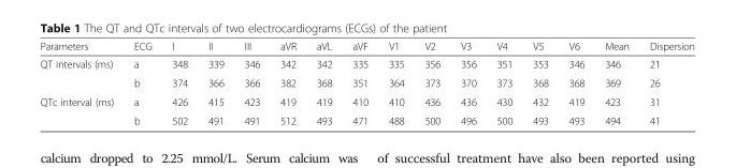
<table><thead><tr><td>Parameters</td><td>ECG</td><td>I</td><td>II</td><td>III</td><td>aVR</td><td>aVL</td><td>aVF</td><td>V1</td><td>V2</td><td>V3</td><td>V4</td><td>V5</td><td>V6</td><td>Mean</td><td>Dispersion</td></tr></thead><tbody><tr><td rowspan="2">QT intervals (ms)</td><td>a</td><td>348</td><td>339</td><td>346</td><td>342</td><td>342</td><td>335</td><td>335</td><td>356</td><td>356</td><td>351</td><td>353</td><td>346</td><td>346</td><td>21</td></tr><tr><td>b</td><td>374</td><td>366</td><td>366</td><td>382</td><td>368</td><td>351</td><td>364</td><td>373</td><td>370</td><td>373</td><td>368</td><td>368</td><td>369</td><td>26</td></tr><tr><td rowspan="2">QTc interval (ms)</td><td>a</td><td>426</td><td>415</td><td>423</td><td>419</td><td>419</td><td>410</td><td>410</td><td>436</td><td>436</td><td>430</td><td>432</td><td>419</td><td>423</td><td>31</td></tr><tr><td>b</td><td>502</td><td>491</td><td>491</td><td>512</td><td>493</td><td>471</td><td>488</td><td>500</td><td>496</td><td>500</td><td>493</td><td>493</td><td>494</td><td>41</td></tr></tbody></table>